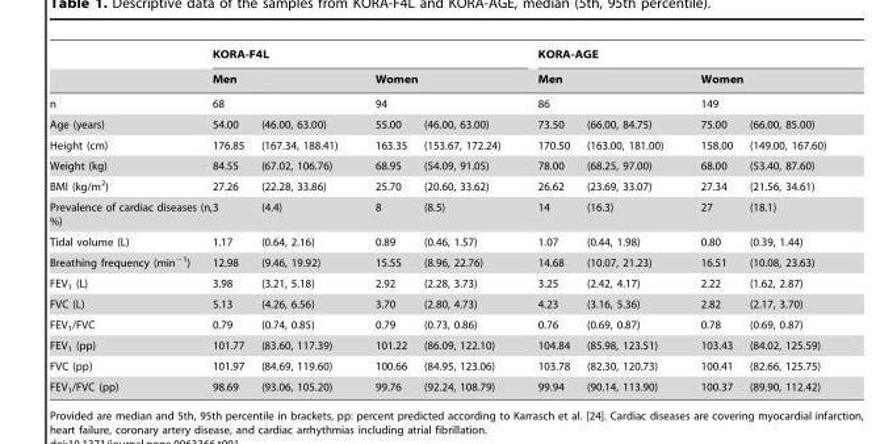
<table><thead><tr><td rowspan="3">n</td><td colspan="4">KORA-F4L</td><td colspan="4">KORA-AGE</td></tr><tr><td colspan="2">Men</td><td colspan="2">Women</td><td colspan="2">Men</td><td colspan="2">Women</td></tr><tr><td>68</td><td></td><td>94</td><td></td><td>86</td><td></td><td>149</td><td></td></tr></thead><tbody><tr><td>Age (years)</td><td>54.00</td><td>(46.00, 63.00)</td><td>55.00</td><td>(46.00, 63.00)</td><td>73.50</td><td>(66.00, 84.75)</td><td>75.00</td><td>(66.00, 85.00)</td></tr><tr><td>Height (cm)</td><td>176.85</td><td>(167.34, 188.41)</td><td>163.35</td><td>(153.67, 172.24)</td><td>170.50</td><td>(163.00, 181.00)</td><td>158.00</td><td>(149.00, 167.60)</td></tr><tr><td>Weight (kg)</td><td>84.55</td><td>(67.02, 106.76)</td><td>68.95</td><td>(54.09, 91.05)</td><td>78.00</td><td>(68.25, 97.00)</td><td>68.00</td><td>(53.40, 87.60)</td></tr><tr><td>BMI (kg/m<sup>2</sup>)</td><td>27.26</td><td>(22.28, 33.86)</td><td>25.70</td><td>(20.60, 33.62)</td><td>26.62</td><td>(23.69, 33.07)</td><td>27.34</td><td>(21.56, 34.61)</td></tr><tr><td>Prevalence of cardiac diseases (n, %)</td><td>3</td><td>(4.4)</td><td>8</td><td>(8.5)</td><td>14</td><td>(16.3)</td><td>27</td><td>(18.1)</td></tr><tr><td>Tidal volume (L)</td><td>1.17</td><td>(0.64, 2.16)</td><td>0.89</td><td>(0.46, 1.57)</td><td>1.07</td><td>(0.44, 1.98)</td><td>0.80</td><td>(0.39, 1.44)</td></tr><tr><td>Breathing frequency (min<sup>−1</sup>)</td><td>12.98</td><td>(9.46, 19.92)</td><td>15.55</td><td>(8.96, 22.76)</td><td>14.68</td><td>(10.07, 21.23)</td><td>16.51</td><td>(10.08, 23.63)</td></tr><tr><td>FEV<sub>1</sub> (L)</td><td>3.98</td><td>(3.21, 5.18)</td><td>2.92</td><td>(2.28, 3.73)</td><td>3.25</td><td>(2.42, 4.17)</td><td>2.22</td><td>(1.62, 2.87)</td></tr><tr><td>FVC (L)</td><td>5.13</td><td>(4.26, 6.56)</td><td>3.70</td><td>(2.80, 4.73)</td><td>4.23</td><td>(3.16, 5.36)</td><td>2.82</td><td>(2.17, 3.70)</td></tr><tr><td>FEV<sub>1</sub>/FVC</td><td>0.79</td><td>(0.74, 0.85)</td><td>0.79</td><td>(0.73, 0.86)</td><td>0.76</td><td>(0.69, 0.87)</td><td>0.78</td><td>(0.69, 0.87)</td></tr><tr><td>FEV<sub>1</sub> (pp)</td><td>101.77</td><td>(83.60, 117.39)</td><td>101.22</td><td>(86.09, 122.10)</td><td>104.84</td><td>(85.98, 123.51)</td><td>103.43</td><td>(84.02, 125.59)</td></tr><tr><td>FVC (pp)</td><td>101.97</td><td>(84.69, 119.60)</td><td>100.66</td><td>(84.95, 123.06)</td><td>103.78</td><td>(82.30, 120.73)</td><td>100.41</td><td>(82.66, 125.75)</td></tr><tr><td>FEV<sub>1</sub>/FVC (pp)</td><td>98.69</td><td>(93.06, 105.20)</td><td>99.76</td><td>(92.24, 108.79)</td><td>99.94</td><td>(90.14, 113.90)</td><td>100.37</td><td>(89.90, 112.42)</td></tr></tbody></table>